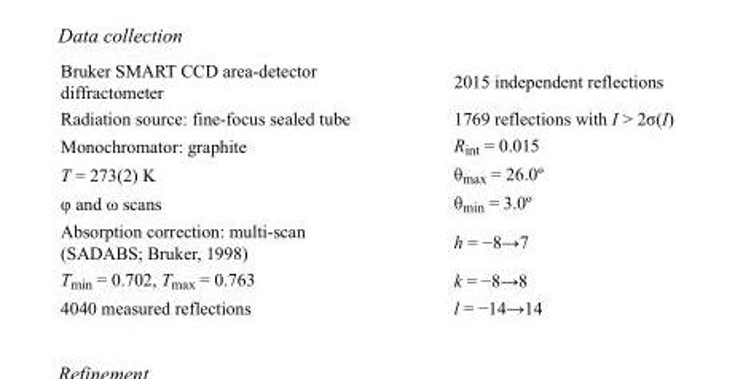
<table><tbody><tr><td>Bruker SMART CCD area-detector diffractometer</td><td>2015 independent reflections</td></tr><tr><td>Radiation source: fine-focus sealed tube</td><td>1769 reflections with I &gt; 2σ(I)</td></tr><tr><td>Monochromator: graphite</td><td>R<sub>int</sub> = 0.015</td></tr><tr><td>T = 273(2) K</td><td>θ<sub>max</sub> = 26.0º</td></tr><tr><td>φ and ω scans</td><td>θ<sub>min</sub> = 3.0º</td></tr><tr><td>Absorption correction: multi-scan (SADABS; Bruker, 1998)</td><td>h = −8→7</td></tr><tr><td>T<sub>min</sub> = 0.702, T<sub>max</sub> = 0.763</td><td>k = −8→8</td></tr><tr><td>4040 measured reflections</td><td>l = −14→14</td></tr></tbody></table>